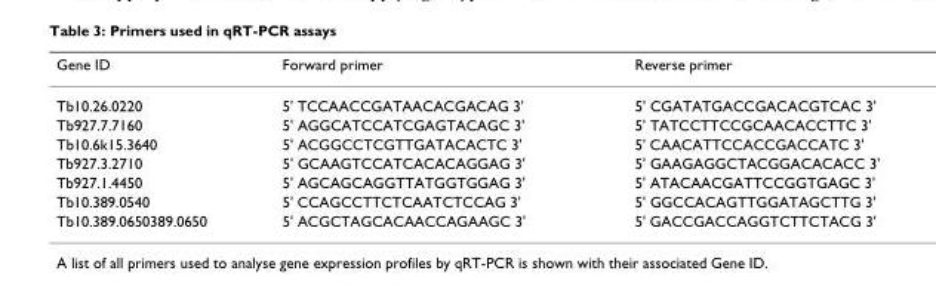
<table><thead><tr><td>Gene ID</td><td>Forward primer</td><td>Reverse primer</td></tr></thead><tbody><tr><td>Tb10.26.0220</td><td>5&#x27; TCCAACCGATAACACGACAG 3&#x27;</td><td>5&#x27; CGATATGACCGACACGTCAC 3&#x27;</td></tr><tr><td>Tb927.7.7160</td><td>5&#x27; AGGCATCCATCGAGTACAGC 3&#x27;</td><td>5&#x27; TATCCTTCCGCAACACCTTC 3&#x27;</td></tr><tr><td>Tb10.6k15.3640</td><td>5&#x27; ACGGCCTCGTTGATACACTC 3&#x27;</td><td>5&#x27; CAACATTCCACCGACCATC 3&#x27;</td></tr><tr><td>Tb927.3.2710</td><td>5&#x27; GCAAGTCCATCACACAGGAG 3&#x27;</td><td>5&#x27; GAAGAGGCTACGGACACACC 3&#x27;</td></tr><tr><td>Tb927.1.4450</td><td>5&#x27; AGCAGCAGGTTATGGTGGAG 3&#x27;</td><td>5&#x27; ATACAACGATTCCGGTGAGC 3&#x27;</td></tr><tr><td>Tb10.389.0540</td><td>5&#x27; CCAGCCTTCTCAATCTCCAG 3&#x27;</td><td>5&#x27; GGCCACAGTTGGATAGCTTG 3&#x27;</td></tr><tr><td>Tb10.389.0650389.0650</td><td>5&#x27; ACGCTAGCACAACCAGAAGC 3&#x27;</td><td>5&#x27; GACCGACCAGGTCTTCTACG 3&#x27;</td></tr></tbody></table>